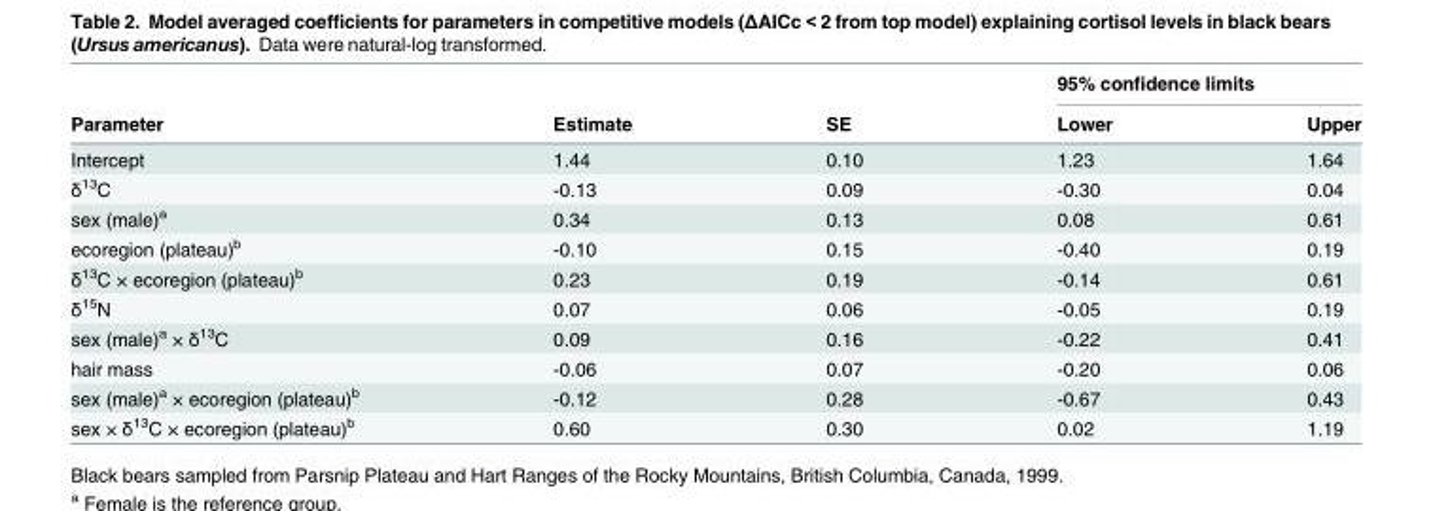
<table><thead><tr><td rowspan="2">Parameter</td><td rowspan="2">Estimate</td><td rowspan="2">SE</td><td colspan="2">95% confidence limits</td></tr><tr><td>Lower</td><td>Upper</td></tr></thead><tbody><tr><td>Intercept</td><td>1.44</td><td>0.10</td><td>1.23</td><td>1.64</td></tr><tr><td>δ<sup>13</sup>C</td><td>-0.13</td><td>0.09</td><td>-0.30</td><td>0.04</td></tr><tr><td>sex (male)<sup>a</sup></td><td>0.34</td><td>0.13</td><td>0.08</td><td>0.61</td></tr><tr><td>ecoregion (plateau)<sup>b</sup></td><td>-0.10</td><td>0.15</td><td>-0.40</td><td>0.19</td></tr><tr><td>δ<sup>13</sup>C × ecoregion (plateau)<sup>b</sup></td><td>0.23</td><td>0.19</td><td>-0.14</td><td>0.61</td></tr><tr><td>δ<sup>15</sup>N</td><td>0.07</td><td>0.06</td><td>-0.05</td><td>0.19</td></tr><tr><td>sex (male)<sup>a</sup> × δ<sup>13</sup>C</td><td>0.09</td><td>0.16</td><td>-0.22</td><td>0.41</td></tr><tr><td>hair mass</td><td>-0.06</td><td>0.07</td><td>-0.20</td><td>0.06</td></tr><tr><td>sex (male)<sup>a</sup> × ecoregion (plateau)<sup>b</sup></td><td>-0.12</td><td>0.28</td><td>-0.67</td><td>0.43</td></tr><tr><td>sex × δ<sup>13</sup>C × ecoregion (plateau)<sup>b</sup></td><td>0.60</td><td>0.30</td><td>0.02</td><td>1.19</td></tr></tbody></table>